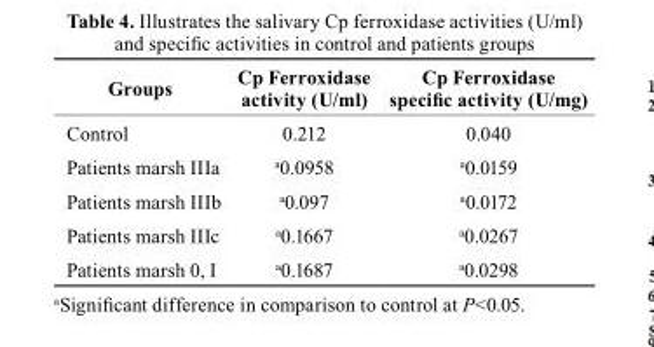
<table><thead><tr><td>Groups</td><td>cp Ferroxidase activity (U/ml)</td><td>cp Ferroxidase specific activity (U/mg)</td></tr></thead><tbody><tr><td>Control</td><td>0.212</td><td>0.040</td></tr><tr><td>Patients marsh IIIa</td><td>a0.0958</td><td>a0.0159</td></tr><tr><td>Patients marsh IIIb</td><td>a0.097</td><td>a0.0172</td></tr><tr><td>Patients marsh IIIc</td><td>a0.1667</td><td>a0.0267</td></tr><tr><td>Patients marsh 0, I</td><td>a0.1687</td><td>a0.0298</td></tr></tbody></table>